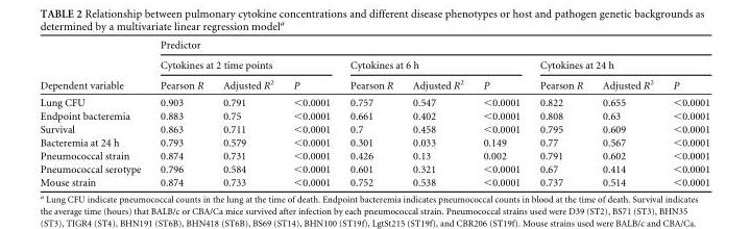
<table><thead><tr><td rowspan="3">Dependent variable</td><td colspan="9">Predictor</td></tr><tr><td colspan="3">Cytokines at 2 time points</td><td colspan="3">Cytokines at 6 h</td><td colspan="3">Cytokines at 24 h</td></tr><tr><td>Pearson R</td><td>Adjusted R<sup>2</sup></td><td>P</td><td>Pearson R</td><td>Adjusted R<sup>2</sup></td><td>P</td><td>Pearson R</td><td>Adjusted R<sup>2</sup></td><td>P</td></tr></thead><tbody><tr><td>Lung CFU</td><td>0.903</td><td>0.791</td><td>&lt;0.0001</td><td>0.757</td><td>0.547</td><td>&lt;0.0001</td><td>0.822</td><td>0.655</td><td>&lt;0.0001</td></tr><tr><td>Endpoint bacteremia</td><td>0.883</td><td>0.75</td><td>&lt;0.0001</td><td>0.661</td><td>0.402</td><td>&lt;0.0001</td><td>0.808</td><td>0.63</td><td>&lt;0.0001</td></tr><tr><td>Survival</td><td>0.863</td><td>0.711</td><td>&lt;0.0001</td><td>0.7</td><td>0.458</td><td>&lt;0.0001</td><td>0.795</td><td>0.609</td><td>&lt;0.0001</td></tr><tr><td>Bacteremia at 24 h</td><td>0.793</td><td>0.579</td><td>&lt;0.0001</td><td>0.301</td><td>0.033</td><td>0.149</td><td>0.77</td><td>0.567</td><td>&lt;0.0001</td></tr><tr><td>Pneumococcal strain</td><td>0.874</td><td>0.731</td><td>&lt;0.0001</td><td>0.426</td><td>0.13</td><td>0.002</td><td>0.791</td><td>0.602</td><td>&lt;0.0001</td></tr><tr><td>Pneumococcal serotype</td><td>0.796</td><td>0.584</td><td>&lt;0.0001</td><td>0.601</td><td>0.321</td><td>&lt;0.0001</td><td>0.67</td><td>0.414</td><td>&lt;0.0001</td></tr><tr><td>Mouse strain</td><td>0.874</td><td>0.733</td><td>&lt;0.0001</td><td>0.752</td><td>0.538</td><td>&lt;0.0001</td><td>0.737</td><td>0.514</td><td>&lt;0.0001</td></tr></tbody></table>